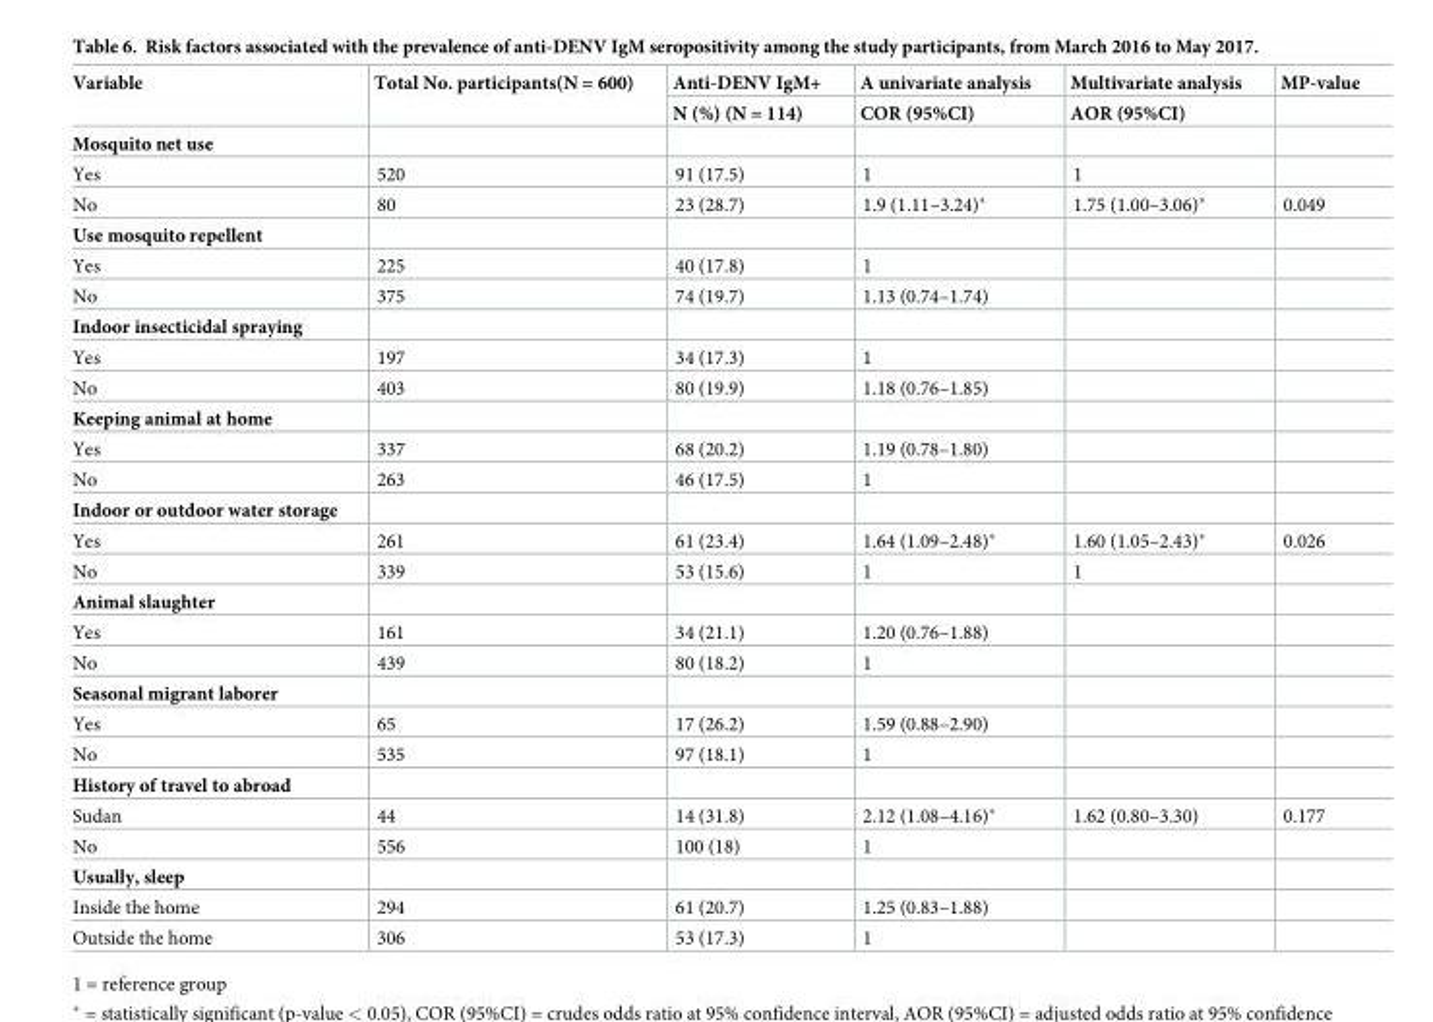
<table><thead><tr><td rowspan="2">Variable</td><td rowspan="2">Total No. participants(N = 600)</td><td rowspan="2">Anti-DENV IgM+ N (%) (N = 114)</td><td rowspan="2">A univariate analysis COR (95%CI)</td><td rowspan="2">Multivariate analysis AOR (95%CI)</td><td rowspan="2">MP-value</td></tr><tr></tr></thead><tbody><tr><td colspan="6">Mosquito net use</td></tr><tr><td>Yes</td><td>520</td><td>91 (17.5)</td><td>1</td><td>1</td><td></td></tr><tr><td>No</td><td>80</td><td>23 (28.7)</td><td>1.9 (1.11–3.24)*</td><td>1.75 (1.00–3.06)*</td><td>0.049</td></tr><tr><td colspan="6">Use mosquito repellent</td></tr><tr><td>Yes</td><td>225</td><td>40 (17.8)</td><td>1</td><td></td><td></td></tr><tr><td>No</td><td>375</td><td>74 (19.7)</td><td>1.13 (0.74–1.74)</td><td></td><td></td></tr><tr><td colspan="6">Indoor insecticidal spraying</td></tr><tr><td>Yes</td><td>197</td><td>34 (17.3)</td><td>1</td><td></td><td></td></tr><tr><td>No</td><td>403</td><td>80 (19.9)</td><td>1.18 (0.76–1.85)</td><td></td><td></td></tr><tr><td colspan="6">Keeping animal at home</td></tr><tr><td>Yes</td><td>337</td><td>68 (20.2)</td><td>1.19 (0.78–1.80)</td><td></td><td></td></tr><tr><td>No</td><td>263</td><td>46 (17.5)</td><td>1</td><td></td><td></td></tr><tr><td colspan="6">Indoor or outdoor water storage</td></tr><tr><td>Yes</td><td>261</td><td>61 (23.4)</td><td>1.64 (1.09–2.48)*</td><td>1.60 (1.05–2.43)*</td><td>0.026</td></tr><tr><td>No</td><td>339</td><td>53 (15.6)</td><td>1</td><td>1</td><td></td></tr><tr><td colspan="6">Animal slaughter</td></tr><tr><td>Yes</td><td>161</td><td>34 (21.1)</td><td>1.20 (0.76–1.88)</td><td></td><td></td></tr><tr><td>No</td><td>439</td><td>80 (18.2)</td><td>1</td><td></td><td></td></tr><tr><td colspan="6">Seasonal migrant laborer</td></tr><tr><td>Yes</td><td>65</td><td>17 (26.2)</td><td>1.59 (0.88–2.90)</td><td></td><td></td></tr><tr><td>No</td><td>535</td><td>97 (18.1)</td><td>1</td><td></td><td></td></tr><tr><td colspan="6">History of travel to abroad</td></tr><tr><td>Sudan</td><td>44</td><td>14 (31.8)</td><td>2.12 (1.08–4.16)*</td><td>1.62 (0.80–3.30)</td><td>0.177</td></tr><tr><td>No</td><td>556</td><td>100 (18)</td><td>1</td><td></td><td></td></tr><tr><td colspan="6">Usually, sleep</td></tr><tr><td>Inside the home</td><td>294</td><td>61 (20.7)</td><td>1.25 (0.83–1.88)</td><td></td><td></td></tr><tr><td>Outside the home</td><td>306</td><td>53 (17.3)</td><td>1</td><td></td><td></td></tr></tbody></table>